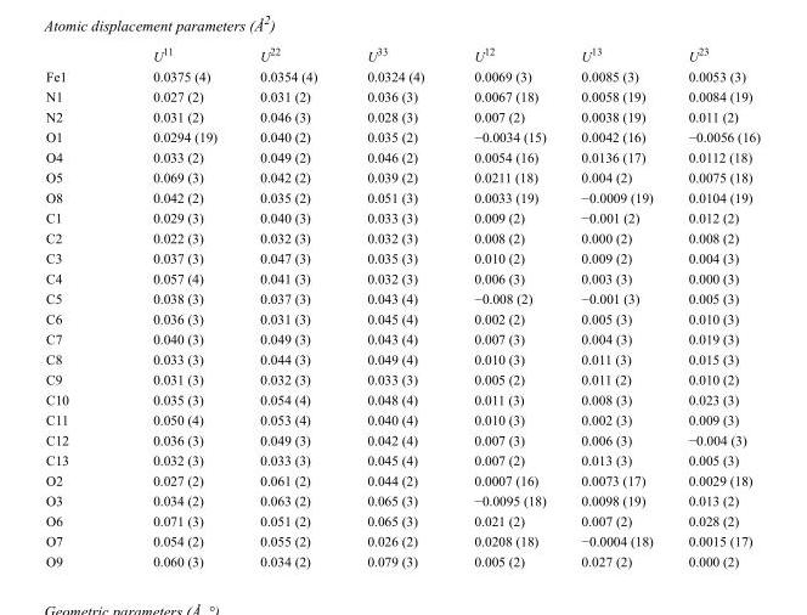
<table><thead><tr><td></td><td>U<sup>11</sup></td><td>U<sup>22</sup></td><td>U<sup>33</sup></td><td>U<sup>12</sup></td><td>U<sup>13</sup></td><td>U<sup>23</sup></td></tr></thead><tbody><tr><td>Fe1</td><td>0.0375 (4)</td><td>0.0354 (4)</td><td>0.0324 (4)</td><td>0.0069 (3)</td><td>0.0085 (3)</td><td>0.0053 (3)</td></tr><tr><td>N1</td><td>0.027 (2)</td><td>0.031 (2)</td><td>0.036 (3)</td><td>0.0067 (18)</td><td>0.0058 (19)</td><td>0.0084 (19)</td></tr><tr><td>N2</td><td>0.031 (2)</td><td>0.046 (3)</td><td>0.028 (3)</td><td>0.007 (2)</td><td>0.0038 (19)</td><td>0.011 (2)</td></tr><tr><td>O1</td><td>0.0294 (19)</td><td>0.040 (2)</td><td>0.035 (2)</td><td>−0.0034 (15)</td><td>0.0042 (16)</td><td>−0.0056 (16)</td></tr><tr><td>O4</td><td>0.033 (2)</td><td>0.049 (2)</td><td>0.046 (2)</td><td>0.0054 (16)</td><td>0.0136 (17)</td><td>0.0112 (18)</td></tr><tr><td>O5</td><td>0.069 (3)</td><td>0.042 (2)</td><td>0.039 (2)</td><td>0.0211 (18)</td><td>0.004 (2)</td><td>0.0075 (18)</td></tr><tr><td>O8</td><td>0.042 (2)</td><td>0.035 (2)</td><td>0.051 (3)</td><td>0.0033 (19)</td><td>−0.0009 (19)</td><td>0.0104 (19)</td></tr><tr><td>C1</td><td>0.029 (3)</td><td>0.040 (3)</td><td>0.033 (3)</td><td>0.009 (2)</td><td>−0.001 (2)</td><td>0.012 (2)</td></tr><tr><td>C2</td><td>0.022 (3)</td><td>0.032 (3)</td><td>0.032 (3)</td><td>0.008 (2)</td><td>0.000 (2)</td><td>0.008 (2)</td></tr><tr><td>C3</td><td>0.037 (3)</td><td>0.047 (3)</td><td>0.035 (3)</td><td>0.010 (2)</td><td>0.009 (2)</td><td>0.004 (3)</td></tr><tr><td>C4</td><td>0.057 (4)</td><td>0.041 (3)</td><td>0.032 (3)</td><td>0.006 (3)</td><td>0.003 (3)</td><td>0.000 (3)</td></tr><tr><td>C5</td><td>0.038 (3)</td><td>0.037 (3)</td><td>0.043 (4)</td><td>−0.008 (2)</td><td>−0.001 (3)</td><td>0.005 (3)</td></tr><tr><td>C6</td><td>0.036 (3)</td><td>0.031 (3)</td><td>0.045 (4)</td><td>0.002 (2)</td><td>0.005 (3)</td><td>0.010 (3)</td></tr><tr><td>C7</td><td>0.040 (3)</td><td>0.049 (3)</td><td>0.043 (4)</td><td>0.007 (3)</td><td>0.004 (3)</td><td>0.019 (3)</td></tr><tr><td>C8</td><td>0.033 (3)</td><td>0.044 (3)</td><td>0.049 (4)</td><td>0.010 (3)</td><td>0.011 (3)</td><td>0.015 (3)</td></tr><tr><td>C9</td><td>0.031 (3)</td><td>0.032 (3)</td><td>0.033 (3)</td><td>0.005 (2)</td><td>0.011 (2)</td><td>0.010 (2)</td></tr><tr><td>C10</td><td>0.035 (3)</td><td>0.054 (4)</td><td>0.048 (4)</td><td>0.011 (3)</td><td>0.008 (3)</td><td>0.023 (3)</td></tr><tr><td>C11</td><td>0.050 (4)</td><td>0.053 (4)</td><td>0.040 (4)</td><td>0.010 (3)</td><td>0.002 (3)</td><td>0.009 (3)</td></tr><tr><td>C12</td><td>0.036 (3)</td><td>0.049 (3)</td><td>0.042 (4)</td><td>0.007 (3)</td><td>0.006 (3)</td><td>−0.004 (3)</td></tr><tr><td>C13</td><td>0.032 (3)</td><td>0.033 (3)</td><td>0.045 (4)</td><td>0.007 (2)</td><td>0.013 (3)</td><td>0.005 (3)</td></tr><tr><td>O2</td><td>0.027 (2)</td><td>0.061 (2)</td><td>0.044 (2)</td><td>0.0007 (16)</td><td>0.0073 (17)</td><td>0.0029 (18)</td></tr><tr><td>O3</td><td>0.034 (2)</td><td>0.063 (2)</td><td>0.065 (3)</td><td>−0.0095 (18)</td><td>0.0098 (19)</td><td>0.013 (2)</td></tr><tr><td>O6</td><td>0.071 (3)</td><td>0.051 (2)</td><td>0.065 (3)</td><td>0.021 (2)</td><td>0.007 (2)</td><td>0.028 (2)</td></tr><tr><td>O7</td><td>0.054 (2)</td><td>0.055 (2)</td><td>0.026 (2)</td><td>0.0208 (18)</td><td>−0.0004 (18)</td><td>0.0015 (17)</td></tr><tr><td>O9</td><td>0.060 (3)</td><td>0.034 (2)</td><td>0.079 (3)</td><td>0.005 (2)</td><td>0.027 (2)</td><td>0.000 (2)</td></tr></tbody></table>